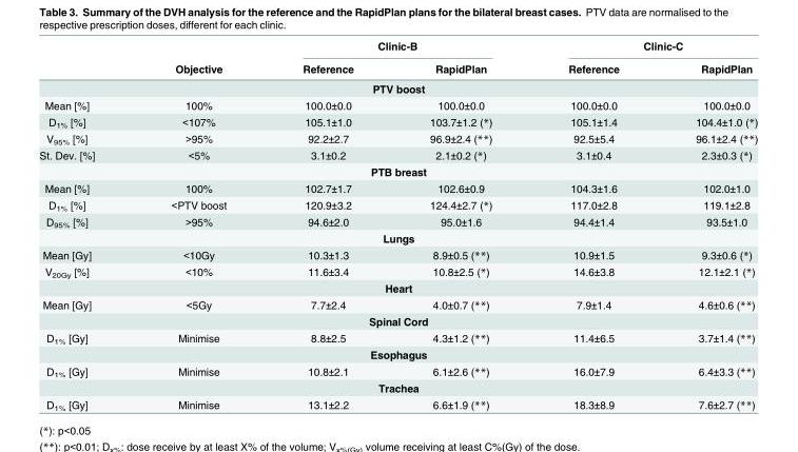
<table><thead><tr><td rowspan="2"></td><td rowspan="2">Objective</td><td colspan="2">Clinic-B</td><td colspan="2">Clinic-C</td></tr><tr><td>Reference</td><td>RapidPlan</td><td>Reference</td><td>RapidPlan</td></tr></thead><tbody><tr><td colspan="6">PTV boost</td></tr><tr><td>Mean [%]</td><td>100%</td><td>100.0±0.0</td><td>100.0±0.0</td><td>100.0±0.0</td><td>100.0±0.0</td></tr><tr><td>D<sub>1%</sub> [%]</td><td>&lt;107%</td><td>105.1±1.0</td><td>103.7±1.2 (*)</td><td>105.1±1.4</td><td>104.4±1.0 (*)</td></tr><tr><td>V<sub>95%</sub> [%]</td><td>&gt;95%</td><td>92.2±2.7</td><td>96.9±2.4 (**)</td><td>92.5±5.4</td><td>96.1±2.4 (**)</td></tr><tr><td>St. Dev. [%]</td><td>&lt;5%</td><td>3.1±0.2</td><td>2.1±0.2 (*)</td><td>3.1±0.4</td><td>2.3±0.3 (*)</td></tr><tr><td colspan="6">PTB breast</td></tr><tr><td>Mean [%]</td><td>100%</td><td>102.7±1.7</td><td>102.6±0.9</td><td>104.3±1.6</td><td>102.0±1.0</td></tr><tr><td>D<sub>1%</sub> [%]</td><td>&lt;PTV boost</td><td>120.9±3.2</td><td>124.4±2.7 (*)</td><td>117.0±2.8</td><td>119.1±2.8</td></tr><tr><td>D<sub>95%</sub> [%]</td><td>&gt;95%</td><td>94.6±2.0</td><td>95.0±1.6</td><td>94.4±1.4</td><td>93.5±1.0</td></tr><tr><td colspan="6">Lungs</td></tr><tr><td>Mean [Gy]</td><td>&lt;10Gy</td><td>10.3±1.3</td><td>8.9±0.5 (**)</td><td>10.9±1.5</td><td>9.3±0.6 (*)</td></tr><tr><td>V<sub>20Gy</sub> [%]</td><td>&lt;10%</td><td>11.6±3.4</td><td>10.8±2.5 (*)</td><td>14.6±3.8</td><td>12.1±2.1 (*)</td></tr><tr><td colspan="6">Heart</td></tr><tr><td>Mean [Gy]</td><td>&lt;5Gy</td><td>7.7±2.4</td><td>4.0±0.7 (**)</td><td>7.9±1.4</td><td>4.6±0.6 (**)</td></tr><tr><td colspan="6">Spinal Cord</td></tr><tr><td>D<sub>1%</sub> [Gy]</td><td>Minimise</td><td>8.8±2.5</td><td>4.3±1.2 (**)</td><td>11.4±6.5</td><td>3.7±1.4 (**)</td></tr><tr><td colspan="6">Esophagus</td></tr><tr><td>D<sub>1%</sub> [Gy]</td><td>Minimise</td><td>10.8±2.1</td><td>6.1±2.6 (**)</td><td>16.0±7.9</td><td>6.4±3.3 (**)</td></tr><tr><td colspan="6">Trachea</td></tr><tr><td>D<sub>1%</sub> [Gy]</td><td>Minimise</td><td>13.1±2.2</td><td>6.6±1.9 (**)</td><td>18.3±8.9</td><td>7.6±2.7 (**)</td></tr></tbody></table>